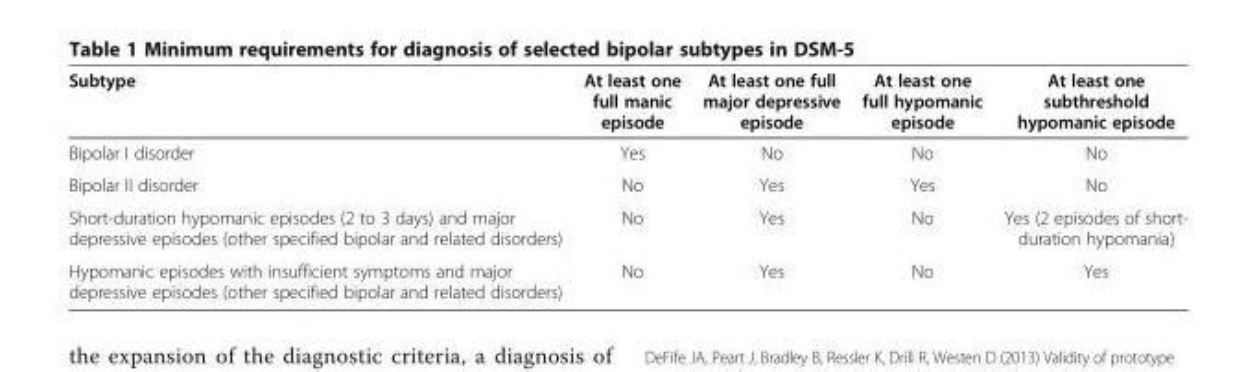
<table><thead><tr><td>Subtype</td><td>At least one full manic episode</td><td>At least one full major depressive episode</td><td>At least one full hypomanic episode</td><td>At least one subthreshold hypomanic episode</td></tr></thead><tbody><tr><td>Bipolar I disorder</td><td>Yes</td><td>No</td><td>No</td><td>No</td></tr><tr><td>Bipolar II disorder</td><td>No</td><td>Yes</td><td>Yes</td><td>No</td></tr><tr><td>Short-duration hypomanic episodes (2 to 3 days) and major depressive episodes (other specified bipolar and related disorders)</td><td>No</td><td>Yes</td><td>No</td><td>Yes (2 episodes of short- duration hypomania)</td></tr><tr><td>Hypomanic episodes with insufficient symptoms and major depressive episodes (other specified bipolar and related disorders)</td><td>No</td><td>Yes</td><td>No</td><td>Yes</td></tr></tbody></table>